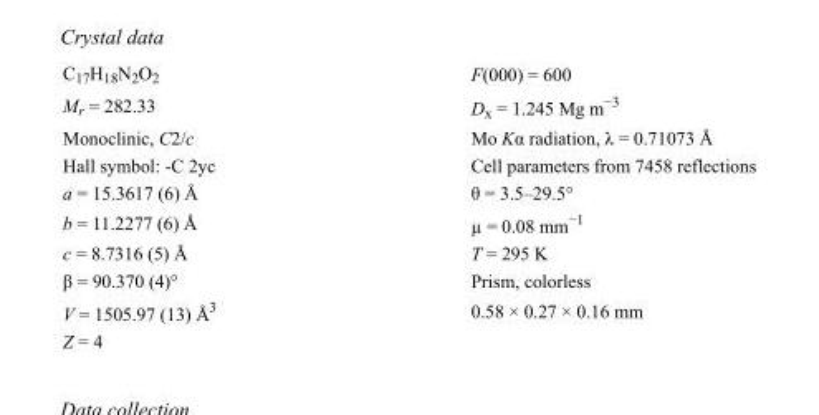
<table><tbody><tr><td>C<sub>17</sub>H<sub>18</sub>N<sub>2</sub>O<sub>2</sub></td><td>F(000) = 600</td></tr><tr><td>M<sub>r</sub> = 282.33</td><td>D<sub>x</sub> = 1.245 Mg m<sup>−3</sup></td></tr><tr><td>Monoclinic, C2/c</td><td>Mo Kα radiation, λ = 0.71073 Å</td></tr><tr><td>Hall symbol: -C 2yc</td><td>Cell parameters from 7458 reflections</td></tr><tr><td>a = 15.3617 (6) Å</td><td>θ = 3.5–29.5°</td></tr><tr><td>b = 11.2277 (6) Å</td><td>µ = 0.08 mm<sup>−1</sup></td></tr><tr><td>c = 8.7316 (5) Å</td><td>T = 295 K</td></tr><tr><td>β = 90.370 (4)°</td><td>Prism, colorless</td></tr><tr><td>V = 1505.97 (13) Å<sup>3</sup></td><td>0.58 × 0.27 × 0.16 mm</td></tr><tr><td>Z = 4</td><td></td></tr></tbody></table>